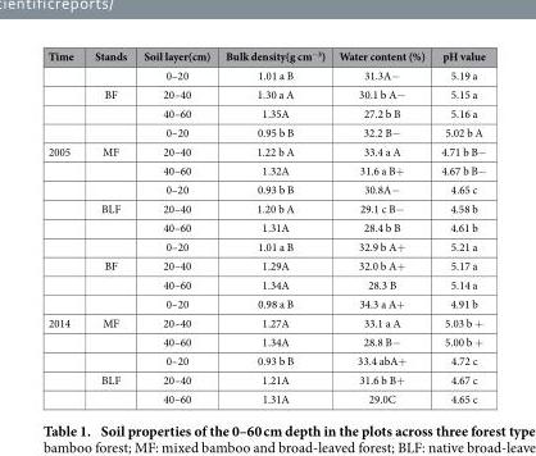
<table><thead><tr><td>Time</td><td>Stands</td><td>Soil layer(cm)</td><td>Bulk density(g cm<sup>−3</sup>)</td><td>Water content (%)</td><td>pH value</td></tr></thead><tbody><tr><td></td><td></td><td>0–20</td><td>1.01 a B</td><td>31.3A−</td><td>5.19 a</td></tr><tr><td></td><td>BF</td><td>20–40</td><td>1.30 a A</td><td>30.1 b A−</td><td>5.15 a</td></tr><tr><td></td><td></td><td>40–60</td><td>1.35A</td><td>27.2 b B</td><td>5.16 a</td></tr><tr><td></td><td></td><td>0–20</td><td>0.95 b B</td><td>32.2 B−</td><td>5.02 b A</td></tr><tr><td rowspan="9">2005</td><td>MF</td><td>20–40</td><td>1.22 b A</td><td>33.4 a A</td><td>4.71 b B−</td></tr><tr><td></td><td>40–60</td><td>1.32A</td><td>31.6 a B+</td><td>4.67 b B−</td></tr><tr><td></td><td>0–20</td><td>0.93 b B</td><td>30.8A−</td><td>4.65 c</td></tr><tr><td>BLF</td><td>20–40</td><td>1.20 b A</td><td>29.1 c B−</td><td>4.58 b</td></tr><tr><td></td><td>40–60</td><td>1.31A</td><td>28.4 b B</td><td>4.61 b</td></tr><tr><td></td><td>0–20</td><td>1.01 a B</td><td>32.9 b A+</td><td>5.21 a</td></tr><tr><td>BF</td><td>20–40</td><td>1.29A</td><td>32.0 b A+</td><td>5.17 a</td></tr><tr><td></td><td>40–60</td><td>1.34A</td><td>28.3 B</td><td>5.14 a</td></tr><tr><td></td><td>0–20</td><td>0.98 a B</td><td>34.3 a A+</td><td>4.91 b</td></tr><tr><td rowspan="5">2014</td><td>MF</td><td>20–40</td><td>1.27A</td><td>33.1 a A</td><td>5.03 b +</td></tr><tr><td></td><td>40–60</td><td>1.34A</td><td>28.8 B−</td><td>5.00 b +</td></tr><tr><td></td><td>0–20</td><td>0.93 b B</td><td>33.4 abA+</td><td>4.72 c</td></tr><tr><td>BLF</td><td>20–40</td><td>1.21A</td><td>31.6 b B+</td><td>4.67 c</td></tr><tr><td></td><td>40–60</td><td>1.31A</td><td>29.0C</td><td>4.65 c</td></tr></tbody></table>